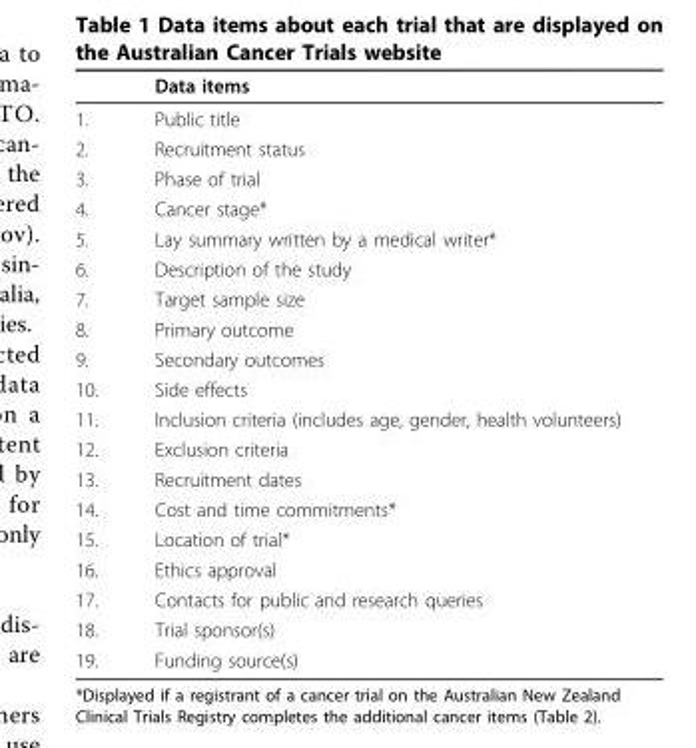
<table><thead><tr><td></td><td>Data items</td></tr></thead><tbody><tr><td>1.</td><td>Public title</td></tr><tr><td>2.</td><td>Recruitment status</td></tr><tr><td>3.</td><td>Phase of trial</td></tr><tr><td>4.</td><td>Cancer stage*</td></tr><tr><td>5.</td><td>Lay summary written by a medical writer*</td></tr><tr><td>6.</td><td>Description of the study</td></tr><tr><td>7.</td><td>Target sample size</td></tr><tr><td>8.</td><td>Primary outcome</td></tr><tr><td>9.</td><td>Secondary outcomes</td></tr><tr><td>10.</td><td>Side effects</td></tr><tr><td>11.</td><td>Inclusion criteria (includes age, gender, health volunteers)</td></tr><tr><td>12.</td><td>Exclusion criteria</td></tr><tr><td>13.</td><td>Recruitment dates</td></tr><tr><td>14.</td><td>Cost and time commitments*</td></tr><tr><td>15.</td><td>Location of trial*</td></tr><tr><td>16.</td><td>Ethics approval</td></tr><tr><td>17.</td><td>Contacts for public and research queries</td></tr><tr><td>18.</td><td>Trial sponsor(s)</td></tr><tr><td>19.</td><td>Funding source(s)</td></tr></tbody></table>